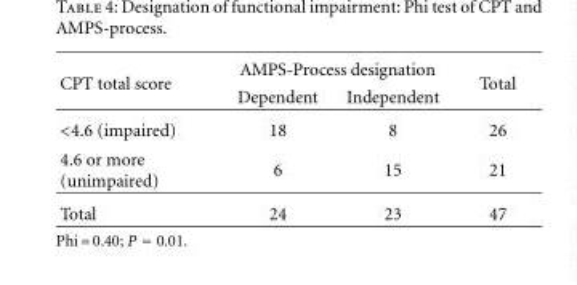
<table><thead><tr><td rowspan="2">CPT total score</td><td colspan="2">AMPS-Process designation</td><td rowspan="2">Total</td></tr><tr><td>Dependent</td><td>Independent</td></tr></thead><tbody><tr><td>&lt;4.6 (impaired)</td><td>18</td><td>8</td><td>26</td></tr><tr><td>4.6 or more (unimpaired)</td><td>6</td><td>15</td><td>21</td></tr><tr><td>Total</td><td>24</td><td>23</td><td>47</td></tr></tbody></table>